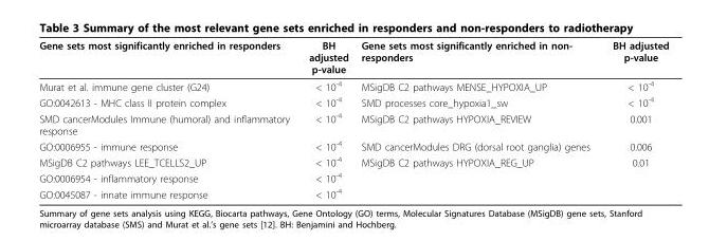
<table><thead><tr><td>Gene sets most significantly enriched in responders</td><td>BH adjusted p-value</td><td>Gene sets most significantly enriched in non- responders</td><td>BH adjusted p-value</td></tr></thead><tbody><tr><td>Murat et al. immune gene cluster (G24)</td><td>&lt; 10<sup>-4</sup></td><td>MSigDB C2 pathways MENSE_HYPOXIA_UP</td><td>&lt; 10<sup>-4</sup></td></tr><tr><td>GO:0042613 - MHC class II protein complex</td><td>&lt; 10<sup>-4</sup></td><td>SMD processes core_hypoxia1_sw</td><td>&lt; 10<sup>-4</sup></td></tr><tr><td>SMD cancerModules Immune (humoral) and inflammatory response</td><td>&lt; 10<sup>-4</sup></td><td>MSigDB C2 pathways HYPOXIA_REVIEW</td><td>0.001</td></tr><tr><td>GO:0006955 - immune response</td><td>&lt; 10<sup>-4</sup></td><td>SMD cancerModules DRG (dorsal root ganglia) genes</td><td>0.006</td></tr><tr><td>MSigDB C2 pathways LEE_TCELLS2_UP</td><td>&lt; 10<sup>-4</sup></td><td>MSigDB C2 pathways HYPOXIA_REG_UP</td><td>0.01</td></tr><tr><td>GO:0006954 - inflammatory response</td><td>&lt; 10<sup>-4</sup></td><td></td><td></td></tr><tr><td>GO:0045087 - innate immune response</td><td>&lt; 10<sup>-4</sup></td><td></td><td></td></tr></tbody></table>